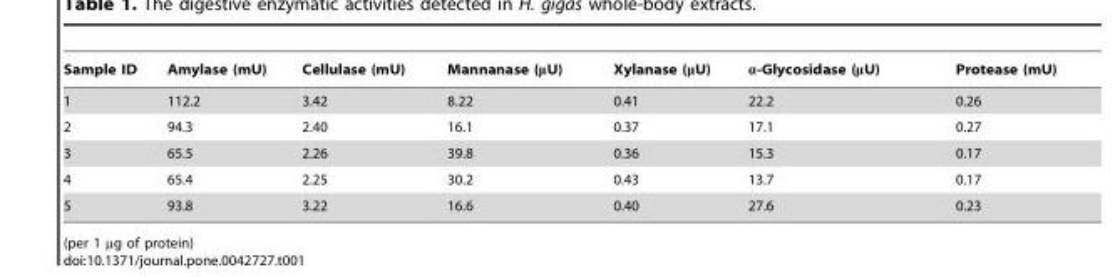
<table><thead><tr><td>Sample ID</td><td>Amylase (mU)</td><td>Cellulase (mU)</td><td>Mannanase (μU)</td><td>Xylanase (μU)</td><td>α-Glycosidase (μU)</td><td>Protease (mU)</td></tr></thead><tbody><tr><td>1</td><td>112.2</td><td>3.42</td><td>8.22</td><td>0.41</td><td>22.2</td><td>0.26</td></tr><tr><td>2</td><td>94.3</td><td>2.40</td><td>16.1</td><td>0.37</td><td>17.1</td><td>0.27</td></tr><tr><td>3</td><td>65.5</td><td>2.26</td><td>39.8</td><td>0.36</td><td>15.3</td><td>0.17</td></tr><tr><td>4</td><td>65.4</td><td>2.25</td><td>30.2</td><td>0.43</td><td>13.7</td><td>0.17</td></tr><tr><td>5</td><td>93.8</td><td>3.22</td><td>16.6</td><td>0.40</td><td>27.6</td><td>0.23</td></tr></tbody></table>